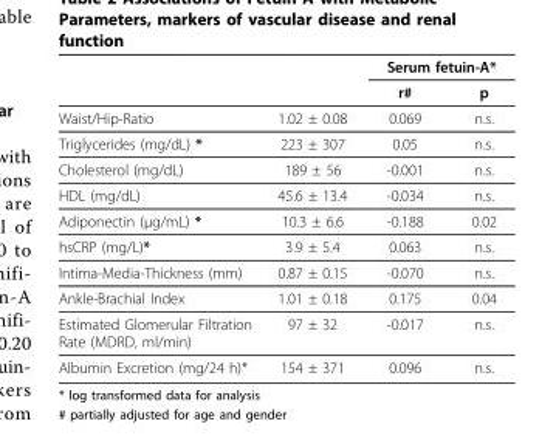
<table><thead><tr><td rowspan="2"></td><td rowspan="2"></td><td colspan="2">Serum fetuin-A*</td></tr><tr><td>r#</td><td>p</td></tr></thead><tbody><tr><td>Waist/Hip-Ratio</td><td>1.02 ± 0.08</td><td>0.069</td><td>n.s.</td></tr><tr><td>Triglycerides (mg/dL) *</td><td>223 ± 307</td><td>0.05</td><td>n.s.</td></tr><tr><td>Cholesterol (mg/dL)</td><td>189 ± 56</td><td>-0.001</td><td>n.s.</td></tr><tr><td>HDL (mg/dL)</td><td>45.6 ± 13.4</td><td>-0.034</td><td>n.s.</td></tr><tr><td>Adiponectin (μg/mL) *</td><td>10.3 ± 6.6</td><td>-0.188</td><td>0.02</td></tr><tr><td>hsCRP (mg/L)*</td><td>3.9 ± 5.4</td><td>0.063</td><td>n.s.</td></tr><tr><td>Intima-Media-Thickness (mm)</td><td>0.87 ± 0.15</td><td>-0.070</td><td>n.s.</td></tr><tr><td>Ankle-Brachial Index</td><td>1.01 ± 0.18</td><td>0.175</td><td>0.04</td></tr><tr><td>Estimated Glomerular Filtration Rate (MDRD, ml/min)</td><td>97 ± 32</td><td>-0.017</td><td>n.s.</td></tr><tr><td>Albumin Excretion (mg/24 h)*</td><td>154 ± 371</td><td>0.096</td><td>n.s.</td></tr></tbody></table>